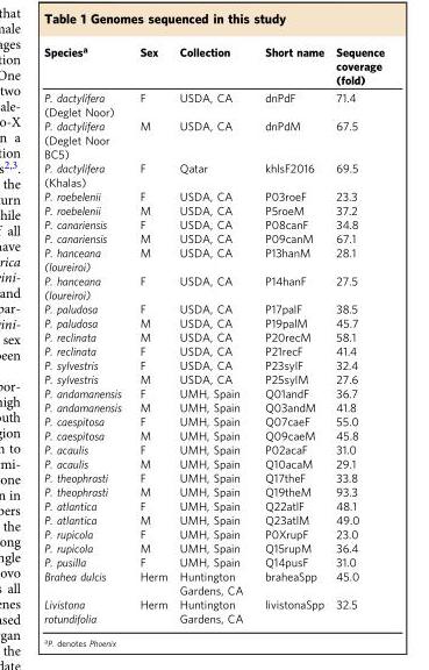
<table><thead><tr><td>Species<sup>a</sup></td><td>Sex</td><td>Collection</td><td>Short name</td><td>Sequence coverage (fold)</td></tr></thead><tbody><tr><td>P. dactylifera (Deglet Noor)</td><td>F</td><td>USDA, CA</td><td>dnPdF</td><td>71.4</td></tr><tr><td>P. dactylifera (Deglet Noor BC5)</td><td>M</td><td>USDA, CA</td><td>dnPdM</td><td>67.5</td></tr><tr><td>P. dactylifera (Khalas)</td><td>F</td><td>Qatar</td><td>khlsF2016</td><td>69.5</td></tr><tr><td>P. roebelenii</td><td>F</td><td>USDA, CA</td><td>P03roeF</td><td>23.3</td></tr><tr><td>P. roebelenii</td><td>M</td><td>USDA, CA</td><td>P5roeM</td><td>37.2</td></tr><tr><td>P. canariensis</td><td>F</td><td>USDA, CA</td><td>P08canF</td><td>34.8</td></tr><tr><td>P. canariensis</td><td>M</td><td>USDA, CA</td><td>P09canM</td><td>67.1</td></tr><tr><td>P. hanceana (loureiroi)</td><td>M</td><td>USDA, CA</td><td>P13hanM</td><td>28.1</td></tr><tr><td>P. hanceana (loureiroi)</td><td>F</td><td>USDA, CA</td><td>P14hanF</td><td>27.5</td></tr><tr><td>P. paludosa</td><td>F</td><td>USDA, CA</td><td>P17palF</td><td>38.5</td></tr><tr><td>P. paludosa</td><td>M</td><td>USDA, CA</td><td>P19palM</td><td>45.7</td></tr><tr><td>P. reclinata</td><td>M</td><td>USDA, CA</td><td>P20recM</td><td>58.1</td></tr><tr><td>P. reclinata</td><td>F</td><td>USDA, CA</td><td>P21recF</td><td>41.4</td></tr><tr><td>P. sylvestris</td><td>F</td><td>USDA, CA</td><td>P23sylF</td><td>32.4</td></tr><tr><td>P. sylvestris</td><td>M</td><td>USDA, CA</td><td>P25sylM</td><td>27.6</td></tr><tr><td>P. andamanensis</td><td>F</td><td>UMH, Spain</td><td>Q01andF</td><td>36.7</td></tr><tr><td>P. andamanensis</td><td>M</td><td>UMH, Spain</td><td>Q03andM</td><td>41.8</td></tr><tr><td>P. caespitosa</td><td>F</td><td>UMH, Spain</td><td>Q07caeF</td><td>55.0</td></tr><tr><td>P. caespitosa</td><td>M</td><td>UMH, Spain</td><td>Q09caeM</td><td>45.8</td></tr><tr><td>P. acaulis</td><td>F</td><td>UMH, Spain</td><td>P02acaF</td><td>31.0</td></tr><tr><td>P. acaulis</td><td>M</td><td>UMH, Spain</td><td>Q10acaM</td><td>29.1</td></tr><tr><td>P. theophrasti</td><td>F</td><td>UMH, Spain</td><td>Q17theF</td><td>33.8</td></tr><tr><td>P. theophrasti</td><td>M</td><td>UMH, Spain</td><td>Q19theM</td><td>93.3</td></tr><tr><td>P. atlantica</td><td>F</td><td>UMH, Spain</td><td>Q22atlF</td><td>48.1</td></tr><tr><td>P. atlantica</td><td>M</td><td>UMH, Spain</td><td>Q23atlM</td><td>49.0</td></tr><tr><td>P. rupicola</td><td>F</td><td>UMH, Spain</td><td>P0XrupF</td><td>23.0</td></tr><tr><td>P. rupicola</td><td>M</td><td>UMH, Spain</td><td>Q15rupM</td><td>36.4</td></tr><tr><td>P. pusilla</td><td>F</td><td>UMH, Spain</td><td>Q14pusF</td><td>31.0</td></tr><tr><td>Brahea dulcis</td><td>Herm</td><td>Huntington Gardens, CA</td><td>braheaSpp</td><td>45.0</td></tr><tr><td>Livistona rotundifolia</td><td>Herm</td><td>Huntington Gardens, CA</td><td>livistonaSpp</td><td>32.5</td></tr></tbody></table>